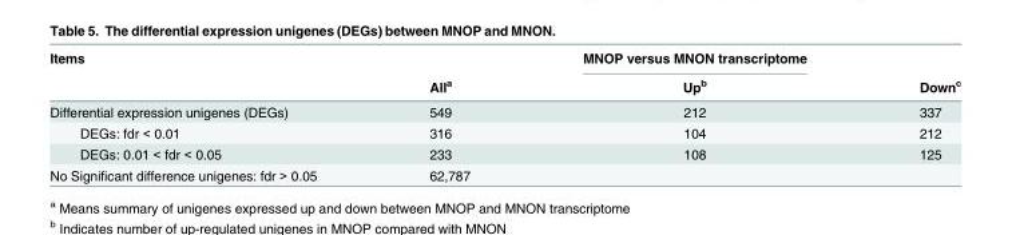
<table><thead><tr><td rowspan="2">Items</td><td rowspan="2">All<sup>a</sup></td><td rowspan="2">MNOP versus MNON transcriptome Up<sup>b</sup></td><td rowspan="2">Down<sup>c</sup></td></tr><tr></tr></thead><tbody><tr><td>Differential expression unigenes (DEGs)</td><td>549</td><td>212</td><td>337</td></tr><tr><td>DEGs: fdr &lt; 0.01</td><td>316</td><td>104</td><td>212</td></tr><tr><td>DEGs: 0.01 &lt; fdr &lt; 0.05</td><td>233</td><td>108</td><td>125</td></tr><tr><td>No Significant difference unigenes: fdr &gt; 0.05</td><td>62,787</td><td></td><td></td></tr></tbody></table>